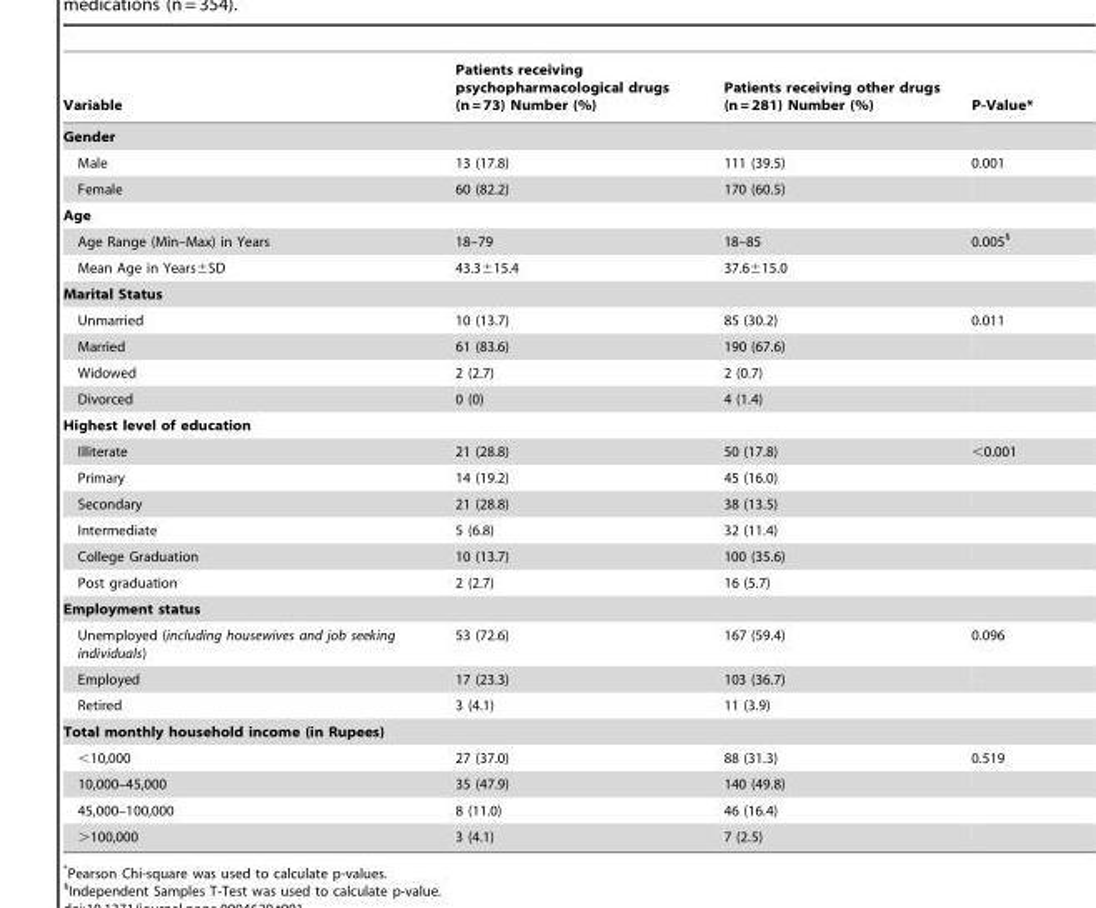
<table><thead><tr><td>Variable</td><td>Patients receiving psychopharmacological drugs (n = 73) Number (%)</td><td>Patients receiving other drugs (n = 281) Number (%)</td><td>P-Value*</td></tr></thead><tbody><tr><td colspan="4">Gender</td></tr><tr><td>Male</td><td>13 (17.8)</td><td>111 (39.5)</td><td>0.001</td></tr><tr><td>Female</td><td>60 (82.2)</td><td>170 (60.5)</td><td></td></tr><tr><td colspan="4">Age</td></tr><tr><td>Age Range (Min–Max) in Years</td><td>18–79</td><td>18–85</td><td>0.005§</td></tr><tr><td>Mean Age in Years±SD</td><td>43.3±15.4</td><td>37.6±15.0</td><td></td></tr><tr><td colspan="4">Marital Status</td></tr><tr><td>Unmarried</td><td>10 (13.7)</td><td>85 (30.2)</td><td>0.011</td></tr><tr><td>Married</td><td>61 (83.6)</td><td>190 (67.6)</td><td></td></tr><tr><td>Widowed</td><td>2 (2.7)</td><td>2 (0.7)</td><td></td></tr><tr><td>Divorced</td><td>0 (0)</td><td>4 (1.4)</td><td></td></tr><tr><td colspan="4">Highest level of education</td></tr><tr><td>Illiterate</td><td>21 (28.8)</td><td>50 (17.8)</td><td>&lt;0.001</td></tr><tr><td>Primary</td><td>14 (19.2)</td><td>45 (16.0)</td><td></td></tr><tr><td>Secondary</td><td>21 (28.8)</td><td>38 (13.5)</td><td></td></tr><tr><td>Intermediate</td><td>5 (6.8)</td><td>32 (11.4)</td><td></td></tr><tr><td>College Graduation</td><td>10 (13.7)</td><td>100 (35.6)</td><td></td></tr><tr><td>Post graduation</td><td>2 (2.7)</td><td>16 (5.7)</td><td></td></tr><tr><td colspan="4">Employment status</td></tr><tr><td>Unemployed (including housewives and job seeking individuals)</td><td>53 (72.6)</td><td>167 (59.4)</td><td>0.096</td></tr><tr><td>Employed</td><td>17 (23.3)</td><td>103 (36.7)</td><td></td></tr><tr><td>Retired</td><td>3 (4.1)</td><td>11 (3.9)</td><td></td></tr><tr><td colspan="4">Total monthly household income (in Rupees)</td></tr><tr><td>&lt;10,000</td><td>27 (37.0)</td><td>88 (31.3)</td><td>0.519</td></tr><tr><td>10,000–45,000</td><td>35 (47.9)</td><td>140 (49.8)</td><td></td></tr><tr><td>45,000–100,000</td><td>8 (11.0)</td><td>46 (16.4)</td><td></td></tr><tr><td>&gt;100,000</td><td>3 (4.1)</td><td>7 (2.5)</td><td></td></tr></tbody></table>